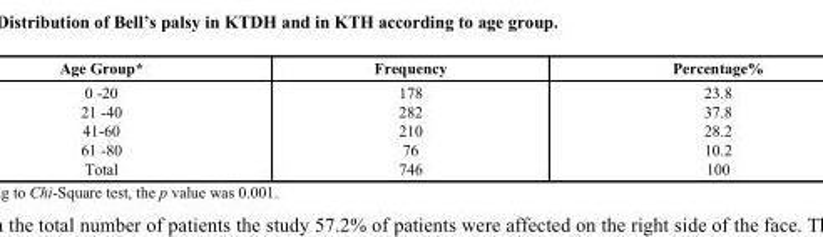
<table><thead><tr><td>Age Group*</td><td>Frequency</td><td>Percentage%</td></tr></thead><tbody><tr><td>0 -20 21 -40 41-60 61 -80 Total</td><td>178 282 210 76 746</td><td>23.8 37.8 28.2 10.2 100</td></tr></tbody></table>